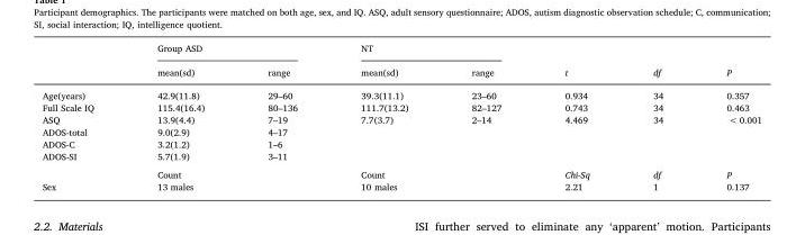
<table><thead><tr><td rowspan="2"></td><td colspan="2">Group ASD</td><td colspan="2">NT</td><td rowspan="2">t</td><td rowspan="2">df</td><td rowspan="2">P</td></tr><tr><td>mean(sd)</td><td>range</td><td>mean(sd)</td><td>range</td></tr></thead><tbody><tr><td>Age(years)</td><td>42.9(11.8)</td><td>29–60</td><td>39.3(11.1)</td><td>23–60</td><td>0.934</td><td>34</td><td>0.357</td></tr><tr><td>Full Scale IQ</td><td>115.4(16.4)</td><td>80–136</td><td>111.7(13.2)</td><td>82–127</td><td>0.743</td><td>34</td><td>0.463</td></tr><tr><td>ASQ</td><td>13.9(4.4)</td><td>7–19</td><td>7.7(3.7)</td><td>2–14</td><td>4.469</td><td>34</td><td>&lt; 0.001</td></tr><tr><td>ADOS-total</td><td>9.0(2.9)</td><td>4–17</td><td></td><td></td><td></td><td></td><td></td></tr><tr><td>ADOS-C</td><td>3.2(1.2)</td><td>1–6</td><td></td><td></td><td></td><td></td><td></td></tr><tr><td rowspan="2">ADOS-SI</td><td>5.7(1.9)</td><td>3–11</td><td></td><td></td><td></td><td></td><td></td></tr><tr><td>Count</td><td></td><td>Count</td><td></td><td>Chi-Sq</td><td>df</td><td>P</td></tr><tr><td>Sex</td><td>13 males</td><td></td><td>10 males</td><td></td><td>2.21</td><td>1</td><td>0.137</td></tr></tbody></table>